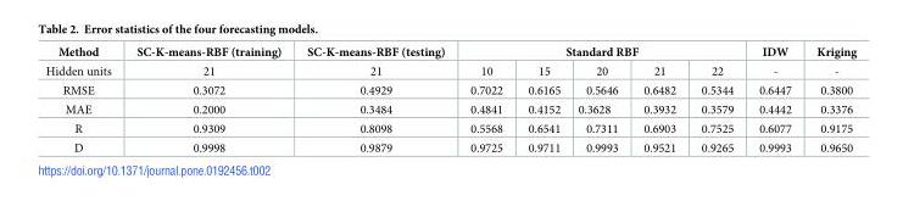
<table><thead><tr><td rowspan="2">Method Hidden units</td><td rowspan="2">SC-K-means-RBF (training) 21</td><td rowspan="2">SC-K-means-RBF (testing) 21</td><td colspan="5">Standard RBF</td><td rowspan="2">IDW -</td><td rowspan="2">Kriging -</td></tr><tr><td>10</td><td>15</td><td>20</td><td>21</td><td>22</td></tr></thead><tbody><tr><td>RMSE</td><td>0.3072</td><td>0.4929</td><td>0.7022</td><td>0.6165</td><td>0.5646</td><td>0.6482</td><td>0.5344</td><td>0.6447</td><td>0.3800</td></tr><tr><td>MAE</td><td>0.2000</td><td>0.3484</td><td>0.4841</td><td>0.4152</td><td>0.3628</td><td>0.3932</td><td>0.3579</td><td>0.4442</td><td>0.3376</td></tr><tr><td>R</td><td>0.9309</td><td>0.8098</td><td>0.5568</td><td>0.6541</td><td>0.7311</td><td>0.6903</td><td>0.7525</td><td>0.6077</td><td>0.9175</td></tr><tr><td>D</td><td>0.9998</td><td>0.9879</td><td>0.9725</td><td>0.9711</td><td>0.9993</td><td>0.9521</td><td>0.9265</td><td>0.9993</td><td>0.9650</td></tr></tbody></table>